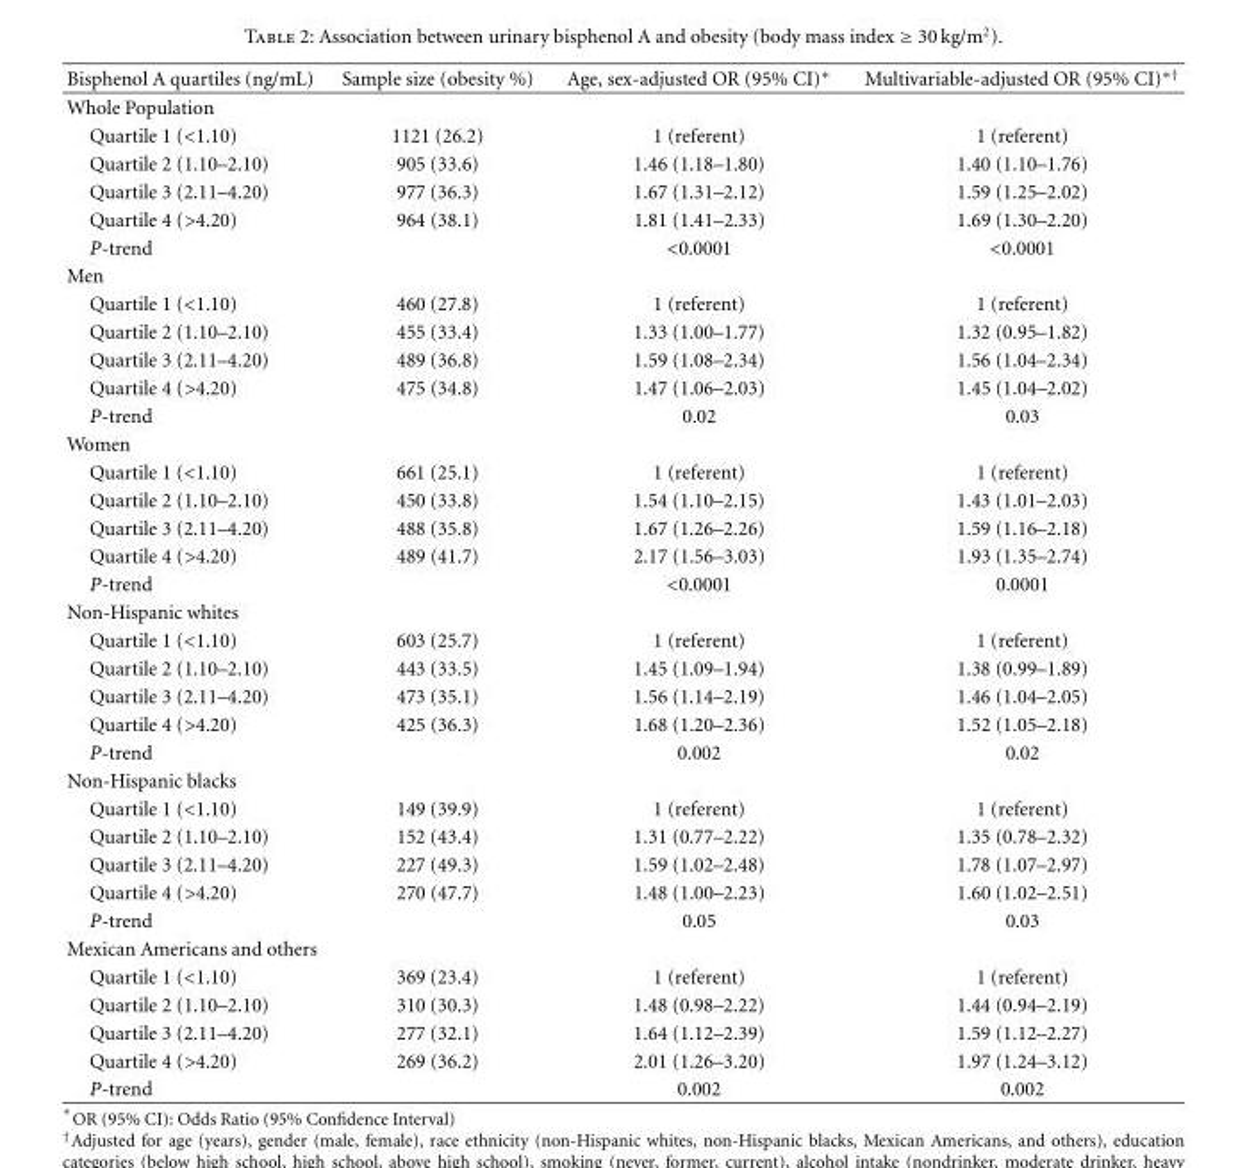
<table><thead><tr><td>Bisphenol A quartiles (ng/mL)</td><td>Sample size (obesity %)</td><td>Age, sex-adjusted OR (95% CI)∗</td><td>Multivariable-adjusted OR (95% CI)<sup>∗†</sup></td></tr></thead><tbody><tr><td colspan="4">Whole Population</td></tr><tr><td>Quartile 1 (&lt;1.10)</td><td>1121 (26.2)</td><td>1 (referent)</td><td>1 (referent)</td></tr><tr><td>Quartile 2 (1.10–2.10)</td><td>905 (33.6)</td><td>1.46 (1.18–1.80)</td><td>1.40 (1.10–1.76)</td></tr><tr><td>Quartile 3 (2.11–4.20)</td><td>977 (36.3)</td><td>1.67 (1.31–2.12)</td><td>1.59 (1.25–2.02)</td></tr><tr><td>Quartile 4 (&gt;4.20)</td><td>964 (38.1)</td><td>1.81 (1.41–2.33)</td><td>1.69 (1.30–2.20)</td></tr><tr><td>P-trend</td><td></td><td>&lt;0.0001</td><td>&lt;0.0001</td></tr><tr><td colspan="4">Men</td></tr><tr><td>Quartile 1 (&lt;1.10)</td><td>460 (27.8)</td><td>1 (referent)</td><td>1 (referent)</td></tr><tr><td>Quartile 2 (1.10–2.10)</td><td>455 (33.4)</td><td>1.33 (1.00–1.77)</td><td>1.32 (0.95–1.82)</td></tr><tr><td>Quartile 3 (2.11–4.20)</td><td>489 (36.8)</td><td>1.59 (1.08–2.34)</td><td>1.56 (1.04–2.34)</td></tr><tr><td>Quartile 4 (&gt;4.20)</td><td>475 (34.8)</td><td>1.47 (1.06–2.03)</td><td>1.45 (1.04–2.02)</td></tr><tr><td>P-trend</td><td></td><td>0.02</td><td>0.03</td></tr><tr><td colspan="4">Women</td></tr><tr><td>Quartile 1 (&lt;1.10)</td><td>661 (25.1)</td><td>1 (referent)</td><td>1 (referent)</td></tr><tr><td>Quartile 2 (1.10–2.10)</td><td>450 (33.8)</td><td>1.54 (1.10–2.15)</td><td>1.43 (1.01–2.03)</td></tr><tr><td>Quartile 3 (2.11–4.20)</td><td>488 (35.8)</td><td>1.67 (1.26–2.26)</td><td>1.59 (1.16–2.18)</td></tr><tr><td>Quartile 4 (&gt;4.20)</td><td>489 (41.7)</td><td>2.17 (1.56–3.03)</td><td>1.93 (1.35–2.74)</td></tr><tr><td>P-trend</td><td></td><td>&lt;0.0001</td><td>0.0001</td></tr><tr><td colspan="4">Non-Hispanic whites</td></tr><tr><td>Quartile 1 (&lt;1.10)</td><td>603 (25.7)</td><td>1 (referent)</td><td>1 (referent)</td></tr><tr><td>Quartile 2 (1.10–2.10)</td><td>443 (33.5)</td><td>1.45 (1.09–1.94)</td><td>1.38 (0.99–1.89)</td></tr><tr><td>Quartile 3 (2.11–4.20)</td><td>473 (35.1)</td><td>1.56 (1.14–2.19)</td><td>1.46 (1.04–2.05)</td></tr><tr><td>Quartile 4 (&gt;4.20)</td><td>425 (36.3)</td><td>1.68 (1.20–2.36)</td><td>1.52 (1.05–2.18)</td></tr><tr><td>P-trend</td><td></td><td>0.002</td><td>0.02</td></tr><tr><td colspan="4">Non-Hispanic blacks</td></tr><tr><td>Quartile 1 (&lt;1.10)</td><td>149 (39.9)</td><td>1 (referent)</td><td>1 (referent)</td></tr><tr><td>Quartile 2 (1.10–2.10)</td><td>152 (43.4)</td><td>1.31 (0.77–2.22)</td><td>1.35 (0.78–2.32)</td></tr><tr><td>Quartile 3 (2.11–4.20)</td><td>227 (49.3)</td><td>1.59 (1.02–2.48)</td><td>1.78 (1.07–2.97)</td></tr><tr><td>Quartile 4 (&gt;4.20)</td><td>270 (47.7)</td><td>1.48 (1.00–2.23)</td><td>1.60 (1.02–2.51)</td></tr><tr><td>P-trend</td><td></td><td>0.05</td><td>0.03</td></tr><tr><td colspan="4">Mexican Americans and others</td></tr><tr><td>Quartile 1 (&lt;1.10)</td><td>369 (23.4)</td><td>1 (referent)</td><td>1 (referent)</td></tr><tr><td>Quartile 2 (1.10–2.10)</td><td>310 (30.3)</td><td>1.48 (0.98–2.22)</td><td>1.44 (0.94–2.19)</td></tr><tr><td>Quartile 3 (2.11–4.20)</td><td>277 (32.1)</td><td>1.64 (1.12–2.39)</td><td>1.59 (1.12–2.27)</td></tr><tr><td>Quartile 4 (&gt;4.20)</td><td>269 (36.2)</td><td>2.01 (1.26–3.20)</td><td>1.97 (1.24–3.12)</td></tr><tr><td>P-trend</td><td></td><td>0.002</td><td>0.002</td></tr></tbody></table>